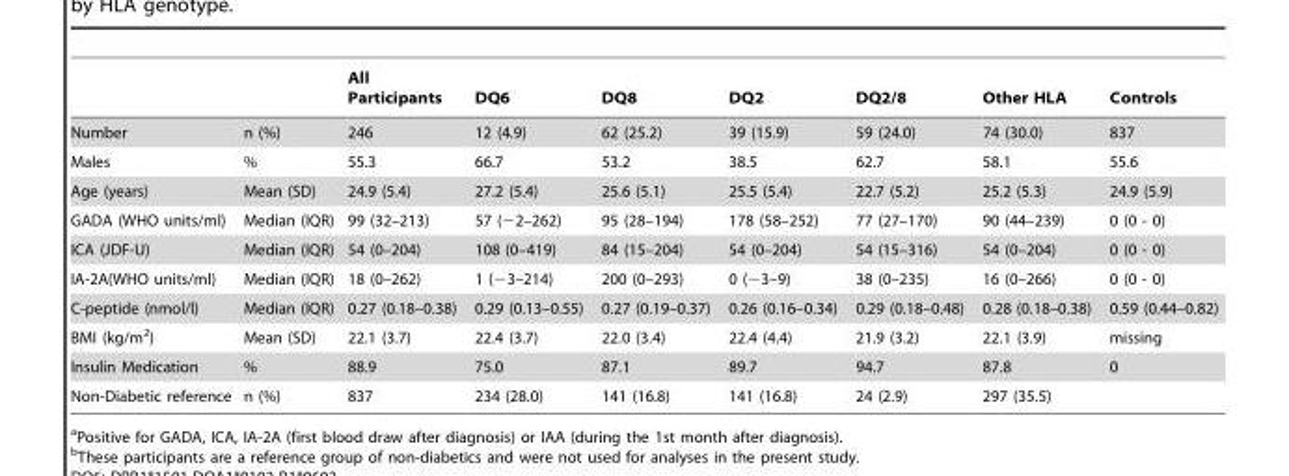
<table><thead><tr><td></td><td></td><td>All Participants</td><td>DQ6</td><td>DQ8</td><td>DQ2</td><td>DQ2/8</td><td>Other HLA</td><td>Controls</td></tr></thead><tbody><tr><td>Number</td><td>n (%)</td><td>246</td><td>12 (4.9)</td><td>62 (25.2)</td><td>39 (15.9)</td><td>59 (24.0)</td><td>74 (30.0)</td><td>837</td></tr><tr><td>Males</td><td>%</td><td>55.3</td><td>66.7</td><td>53.2</td><td>38.5</td><td>62.7</td><td>58.1</td><td>55.6</td></tr><tr><td>Age (years)</td><td>Mean (SD)</td><td>24.9 (5.4)</td><td>27.2 (5.4)</td><td>25.6 (5.1)</td><td>25.5 (5.4)</td><td>22.7 (5.2)</td><td>25.2 (5.3)</td><td>24.9 (5.9)</td></tr><tr><td>GADA (WHO units/ml)</td><td>Median (IQR)</td><td>99 (32–213)</td><td>57 (−2–262)</td><td>95 (28–194)</td><td>178 (58–252)</td><td>77 (27–170)</td><td>90 (44–239)</td><td>0 (0 - 0)</td></tr><tr><td>ICA (JDF-U)</td><td>Median (IQR)</td><td>54 (0–204)</td><td>108 (0–419)</td><td>84 (15–204)</td><td>54 (0–204)</td><td>54 (15–316)</td><td>54 (0–204)</td><td>0 (0 - 0)</td></tr><tr><td>IA-2A(WHO units/ml)</td><td>Median (IQR)</td><td>18 (0–262)</td><td>1 (−3–214)</td><td>200 (0–293)</td><td>0 (−3–9)</td><td>38 (0–235)</td><td>16 (0–266)</td><td>0 (0 - 0)</td></tr><tr><td>C-peptide (nmol/l)</td><td>Median (IQR)</td><td>0.27 (0.18–0.38)</td><td>0.29 (0.13–0.55)</td><td>0.27 (0.19–0.37)</td><td>0.26 (0.16–0.34)</td><td>0.29 (0.18–0.48)</td><td>0.28 (0.18–0.38)</td><td>0.59 (0.44–0.82)</td></tr><tr><td>BMI (kg/m<sup>2</sup>)</td><td>Mean (SD)</td><td>22.1 (3.7)</td><td>22.4 (3.7)</td><td>22.0 (3.4)</td><td>22.4 (4.4)</td><td>21.9 (3.2)</td><td>22.1 (3.9)</td><td>missing</td></tr><tr><td>Insulin Medication</td><td>%</td><td>88.9</td><td>75.0</td><td>87.1</td><td>89.7</td><td>94.7</td><td>87.8</td><td>0</td></tr><tr><td>Non-Diabetic reference</td><td>n (%)</td><td>837</td><td>234 (28.0)</td><td>141 (16.8)</td><td>141 (16.8)</td><td>24 (2.9)</td><td>297 (35.5)</td><td></td></tr></tbody></table>